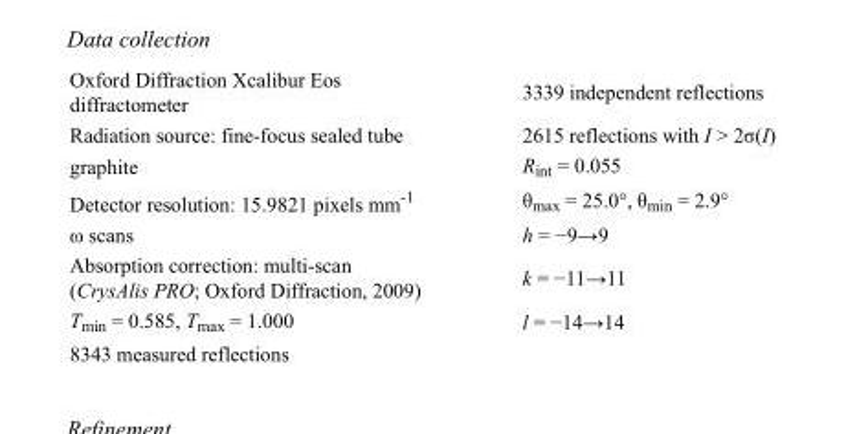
<table><tbody><tr><td>Oxford Diffraction Xcalibur Eos diffractometer</td><td>3339 independent reflections</td></tr><tr><td>Radiation source: fine-focus sealed tube</td><td>2615 reflections with I &gt; 2σ(I)</td></tr><tr><td>graphite</td><td>R<sub>int</sub> = 0.055</td></tr><tr><td>Detector resolution: 15.9821 pixels mm<sup>-1</sup></td><td>θ<sub>max</sub> = 25.0°, θ<sub>min</sub> = 2.9°</td></tr><tr><td>ω scans</td><td>h = −9→9</td></tr><tr><td>Absorption correction: multi-scan (CrysAlis PRO; Oxford Diffraction, 2009)</td><td>k = −11→11</td></tr><tr><td>T<sub>min</sub> = 0.585, T<sub>max</sub> = 1.000</td><td>l = −14→14</td></tr><tr><td>8343 measured reflections</td><td></td></tr></tbody></table>